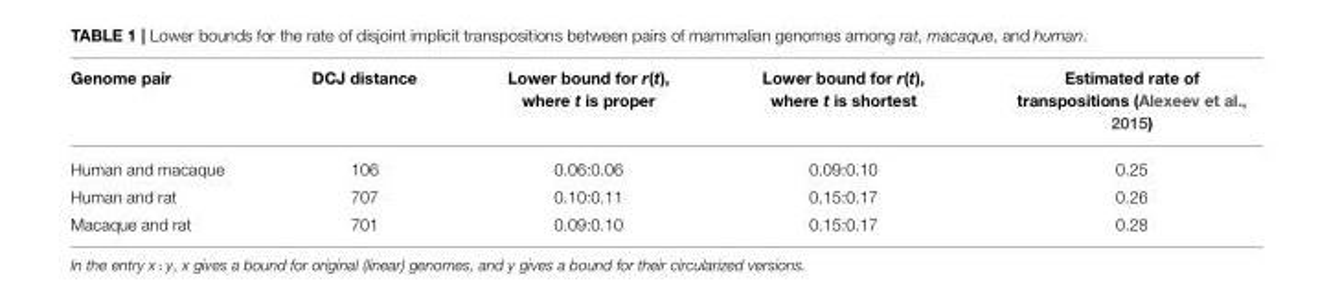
<table><thead><tr><td>Genome pair</td><td>DCJ distance</td><td>Lower bound for r(t), where t is proper</td><td>Lower bound for r(t), where t is shortest</td><td>Estimated rate of transpositions (Alexeev et al., 2015)</td></tr></thead><tbody><tr><td>Human and macaque</td><td>106</td><td>0.06:0.06</td><td>0.09:0.10</td><td>0.25</td></tr><tr><td>Human and rat</td><td>707</td><td>0.10:0.11</td><td>0.15:0.17</td><td>0.26</td></tr><tr><td>Macaque and rat</td><td>701</td><td>0.09:0.10</td><td>0.15:0.17</td><td>0.28</td></tr></tbody></table>